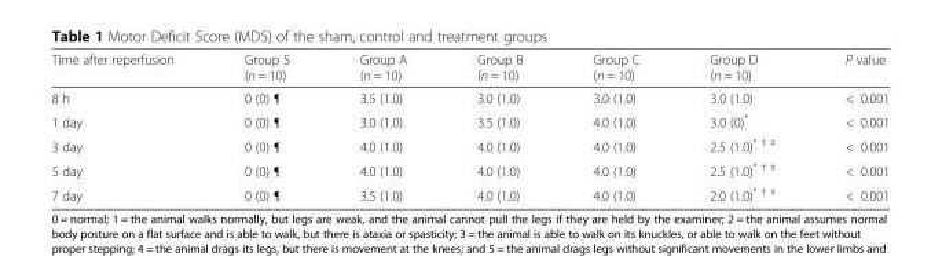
<table><thead><tr><td>Time after reperfusion</td><td>Group S (n = 10)</td><td>Group A (n = 10)</td><td>Group B (n = 10)</td><td>Group C (n = 10)</td><td>Group D (n = 10)</td><td>P value</td></tr></thead><tbody><tr><td>8 h</td><td>0 (0) ¶</td><td>3.5 (1.0)</td><td>3.0 (1.0)</td><td>3.0 (1.0)</td><td>3.0 (1.0)</td><td>&lt; 0.001</td></tr><tr><td>1 day</td><td>0 (0) ¶</td><td>3.0 (1.0)</td><td>3.5 (1.0)</td><td>4.0 (1.0)</td><td>3.0 (0)*</td><td>&lt; 0.001</td></tr><tr><td>3 day</td><td>0 (0) ¶</td><td>4.0 (1.0)</td><td>4.0 (1.0)</td><td>4.0 (1.0)</td><td>2.5 (1.0)<sup>* † ‡</sup></td><td>&lt; 0.001</td></tr><tr><td>5 day</td><td>0 (0) ¶</td><td>4.0 (1.0)</td><td>4.0 (1.0)</td><td>4.0 (1.0)</td><td>2.5 (1.0)<sup>* † ‡</sup></td><td>&lt; 0.001</td></tr><tr><td>7 day</td><td>0 (0) ¶</td><td>3.5 (1.0)</td><td>4.0 (1.0)</td><td>4.0 (1.0)</td><td>2.0 (1.0)<sup>* † ‡</sup></td><td>&lt; 0.001</td></tr></tbody></table>